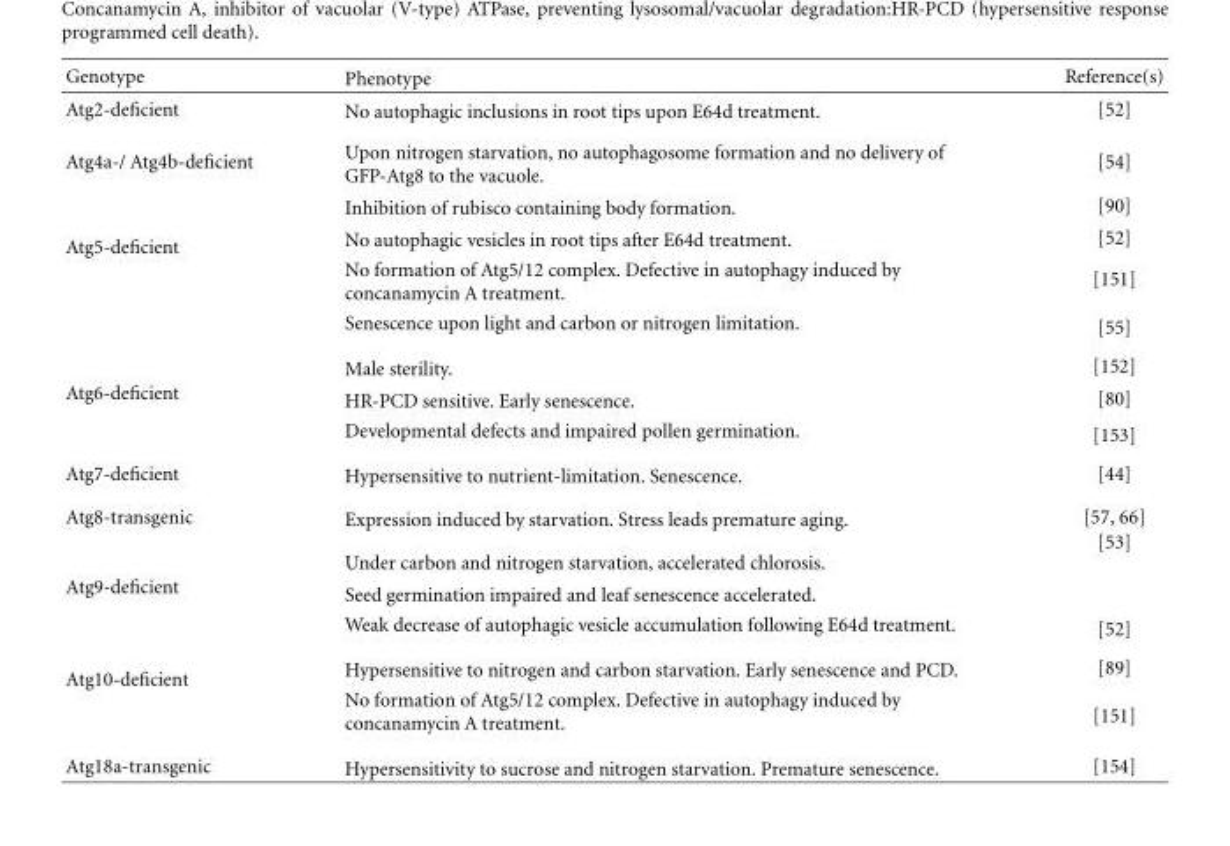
<table><thead><tr><td>Genotype</td><td>Phenotype</td><td>Reference(s)</td></tr></thead><tbody><tr><td>Atg2-deficient</td><td>No autophagic inclusions in root tips upon E64d treatment.</td><td>[52]</td></tr><tr><td>Atg4a-/ Atg4b-deficient</td><td>Upon nitrogen starvation, no autophagosome formation and no delivery of GFP-Atg8 to the vacuole.</td><td>[54]</td></tr><tr><td rowspan="4">Atg5-deficient</td><td>Inhibition of rubisco containing body formation.</td><td>[90]</td></tr><tr><td>No autophagic vesicles in root tips after E64d treatment.</td><td>[52]</td></tr><tr><td>No formation of Atg5/12 complex. Defective in autophagy induced by concanamycin A treatment.</td><td>[151]</td></tr><tr><td>Senescence upon light and carbon or nitrogen limitation.</td><td>[55]</td></tr><tr><td rowspan="3">Atg6-deficient</td><td>Male sterility.</td><td>[152]</td></tr><tr><td>HR-PCD sensitive. Early senescence.</td><td>[80]</td></tr><tr><td>Developmental defects and impaired pollen germination.</td><td>[153]</td></tr><tr><td>Atg7-deficient</td><td>Hypersensitive to nutrient-limitation. Senescence.</td><td>[44]</td></tr><tr><td>Atg8-transgenic</td><td>Expression induced by starvation. Stress leads premature aging.</td><td>[57, 66]</td></tr><tr><td rowspan="3">Atg9-deficient</td><td>Under carbon and nitrogen starvation, accelerated chlorosis.</td><td rowspan="2">[53]</td></tr><tr><td>Seed germination impaired and leaf senescence accelerated.</td></tr><tr><td>Weak decrease of autophagic vesicle accumulation following E64d treatment.</td><td>[52]</td></tr><tr><td rowspan="2">Atg10-deficient</td><td>Hypersensitive to nitrogen and carbon starvation. Early senescence and PCD.</td><td>[89]</td></tr><tr><td>No formation of Atg5/12 complex. Defective in autophagy induced by concanamycin A treatment.</td><td>[151]</td></tr><tr><td>Atg18a-transgenic</td><td>Hypersensitivity to sucrose and nitrogen starvation. Premature senescence.</td><td>[154]</td></tr></tbody></table>